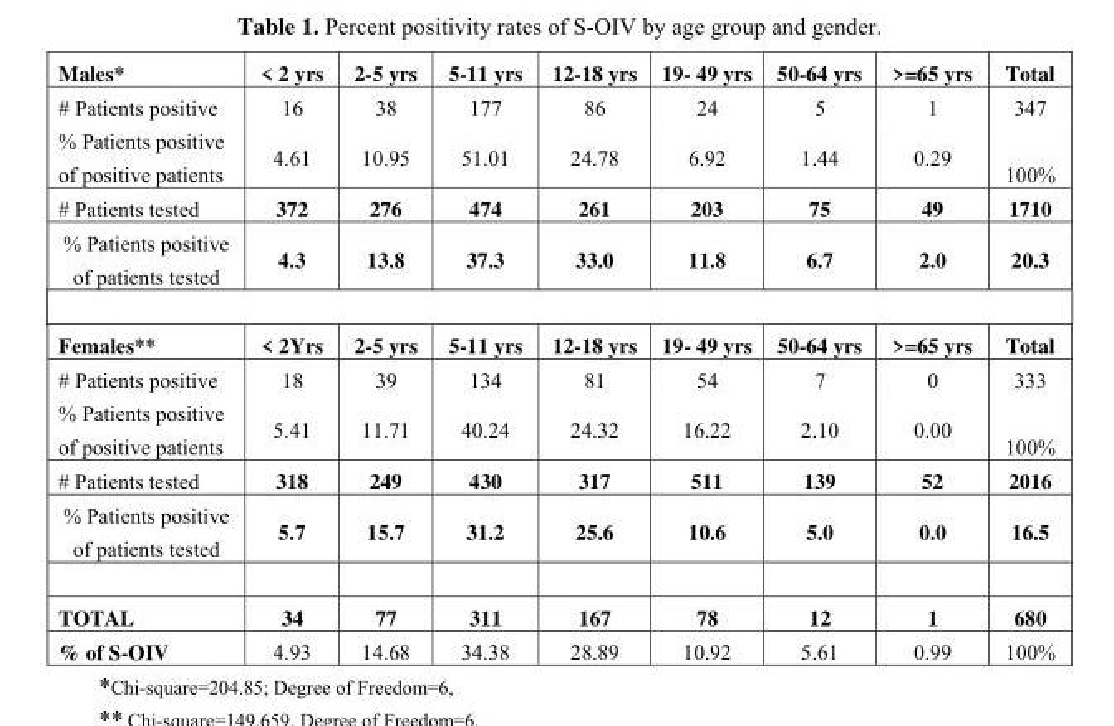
<table><tbody><tr><td>Males*</td><td>&lt; 2 yrs</td><td>2-5 yrs</td><td>5-11 yrs</td><td>12-18 yrs</td><td>19- 49 yrs</td><td>50-64 yrs</td><td>&gt;=65 yrs</td><td>Total</td></tr><tr><td># Patients positive</td><td>16</td><td>38</td><td>177</td><td>86</td><td>24</td><td>5</td><td>1</td><td>347</td></tr><tr><td>% Patients positive of positive patients</td><td>4.61</td><td>10.95</td><td>51.01</td><td>24.78</td><td>6.92</td><td>1.44</td><td>0.29</td><td>100%</td></tr><tr><td># Patients tested</td><td>372</td><td>276</td><td>474</td><td>261</td><td>203</td><td>75</td><td>49</td><td>1710</td></tr><tr><td>% Patients positive of patients tested</td><td>4.3</td><td>13.8</td><td>37.3</td><td>33.0</td><td>11.8</td><td>6.7</td><td>2.0</td><td>20.3</td></tr><tr><td>Females**</td><td>&lt; 2Yrs</td><td>2-5 yrs</td><td>5-11 yrs</td><td>12-18 yrs</td><td>19- 49 yrs</td><td>50-64 yrs</td><td>&gt;=65 yrs</td><td>Total</td></tr><tr><td># Patients positive</td><td>18</td><td>39</td><td>134</td><td>81</td><td>54</td><td>7</td><td>0</td><td>333</td></tr><tr><td>% Patients positive of positive patients</td><td>5.41</td><td>11.71</td><td>40.24</td><td>24.32</td><td>16.22</td><td>2.10</td><td>0.00</td><td>100%</td></tr><tr><td># Patients tested</td><td>318</td><td>249</td><td>430</td><td>317</td><td>511</td><td>139</td><td>52</td><td>2016</td></tr><tr><td>% Patients positive of patients tested</td><td>5.7</td><td>15.7</td><td>31.2</td><td>25.6</td><td>10.6</td><td>5.0</td><td>0.0</td><td>16.5</td></tr><tr><td>TOTAL</td><td>34</td><td>77</td><td>311</td><td>167</td><td>78</td><td>12</td><td>1</td><td>680</td></tr><tr><td>% of S-OIV</td><td>4.93</td><td>14.68</td><td>34.38</td><td>28.89</td><td>10.92</td><td>5.61</td><td>0.99</td><td>100%</td></tr></tbody></table>